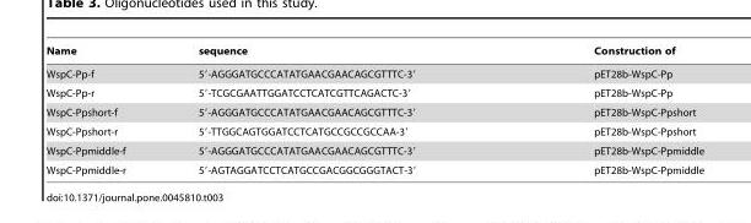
<table><thead><tr><td>Name</td><td>sequence</td><td>Construction of</td></tr></thead><tbody><tr><td>WspC-Pp-f</td><td>5′-AGGGATGCCCATATGAACGAACAGCGTTTC-3′</td><td>pET28b-WspC-Pp</td></tr><tr><td>WspC-Pp-r</td><td>5′-TCGCGAATTGGATCCTCATCGTTCAGACTC-3′</td><td>pET28b-WspC-Pp</td></tr><tr><td>WspC-Ppshort-f</td><td>5′-AGGGATGCCCATATGAACGAACAGCGTTTC-3′</td><td>pET28b-WspC-Ppshort</td></tr><tr><td>WspC-Ppshort-r</td><td>5′-TTGGCAGTGGATCCTCATGCCGCCGCCAA-3′</td><td>pET28b-WspC-Ppshort</td></tr><tr><td>WspC-Ppmiddle-f</td><td>5′-AGGGATGCCCATATGAACGAACAGCGTTTC-3′</td><td>pET28b-WspC-Ppmiddle</td></tr><tr><td>WspC-Ppmiddle-r</td><td>5′-AGTAGGATCCTCATGCCGACGGCGGGTACT-3′</td><td>pET28b-WspC-Ppmiddle</td></tr></tbody></table>